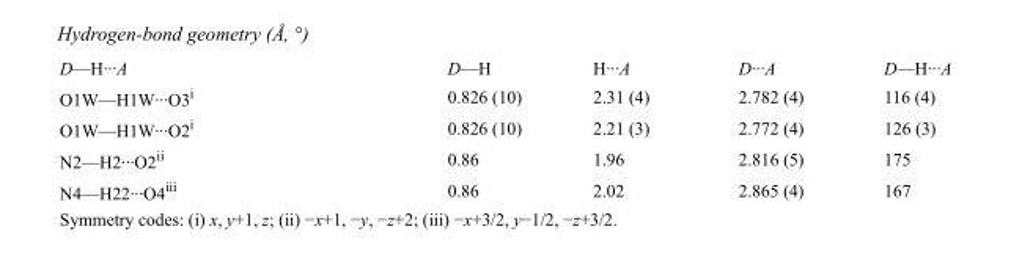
<table><tbody><tr><td>D—H···A</td><td>D—H</td><td>H···A</td><td>D···A</td><td>D—H···A</td></tr><tr><td>O1W—H1W···O3<sup>i</sup></td><td>0.826 (10)</td><td>2.31 (4)</td><td>2.782 (4)</td><td>116 (4)</td></tr><tr><td>O1W—H1W···O2<sup>i</sup></td><td>0.826 (10)</td><td>2.21 (3)</td><td>2.772 (4)</td><td>126 (3)</td></tr><tr><td>N2—H2···O2<sup>ii</sup></td><td>0.86</td><td>1.96</td><td>2.816 (5)</td><td>175</td></tr><tr><td>N4—H22···O4<sup>iii</sup></td><td>0.86</td><td>2.02</td><td>2.865 (4)</td><td>167</td></tr></tbody></table>